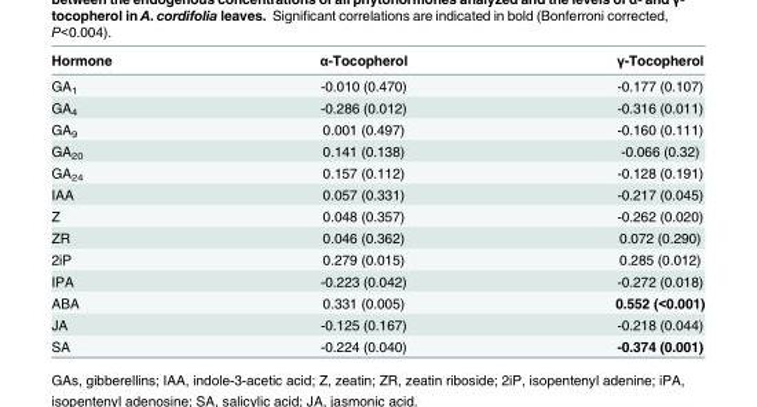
<table><thead><tr><td>Hormone</td><td>α-Tocopherol</td><td>γ-Tocopherol</td></tr></thead><tbody><tr><td>GA<sub>1</sub></td><td>-0.010 (0.470)</td><td>-0.177 (0.107)</td></tr><tr><td>GA<sub>4</sub></td><td>-0.286 (0.012)</td><td>-0.316 (0.011)</td></tr><tr><td>GA<sub>9</sub></td><td>0.001 (0.497)</td><td>-0.160 (0.111)</td></tr><tr><td>GA<sub>20</sub></td><td>0.141 (0.138)</td><td>-0.066 (0.32)</td></tr><tr><td>GA<sub>24</sub></td><td>0.157 (0.112)</td><td>-0.128 (0.191)</td></tr><tr><td>IAA</td><td>0.057 (0.331)</td><td>-0.217 (0.045)</td></tr><tr><td>Z</td><td>0.048 (0.357)</td><td>-0.262 (0.020)</td></tr><tr><td>ZR</td><td>0.046 (0.362)</td><td>0.072 (0.290)</td></tr><tr><td>2iP</td><td>0.279 (0.015)</td><td>0.285 (0.012)</td></tr><tr><td>IPA</td><td>-0.223 (0.042)</td><td>-0.272 (0.018)</td></tr><tr><td>ABA</td><td>0.331 (0.005)</td><td>0.552 (&lt;0.001)</td></tr><tr><td>JA</td><td>-0.125 (0.167)</td><td>-0.218 (0.044)</td></tr><tr><td>SA</td><td>-0.224 (0.040)</td><td>-0.374 (0.001)</td></tr></tbody></table>